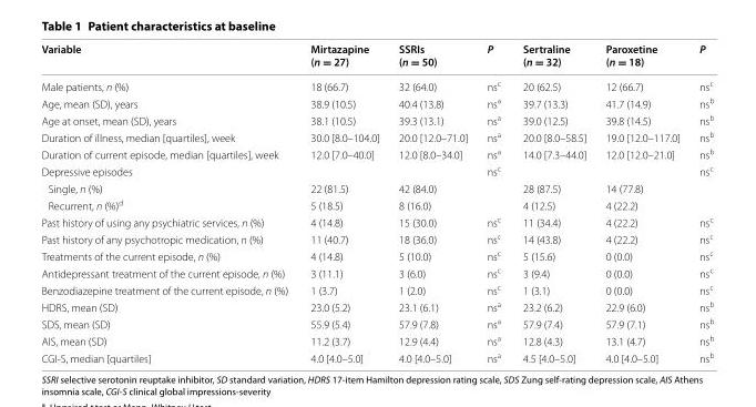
<table><thead><tr><td>Variable</td><td>Mirtazapine (n = 27)</td><td>SSRIs (n = 50)</td><td>P</td><td>Sertraline (n = 32)</td><td>Paroxetine (n = 18)</td><td>P</td></tr></thead><tbody><tr><td>Male patients, n (%)</td><td>18 (66.7)</td><td>32 (64.0)</td><td>ns<sup>c</sup></td><td>20 (62.5)</td><td>12 (66.7)</td><td>ns<sup>c</sup></td></tr><tr><td>Age, mean (SD), years</td><td>38.9 (10.5)</td><td>40.4 (13.8)</td><td>ns<sup>a</sup></td><td>39.7 (13.3)</td><td>41.7 (14.9)</td><td>ns<sup>b</sup></td></tr><tr><td>Age at onset, mean (SD), years</td><td>38.1 (10.5)</td><td>39.3 (13.1)</td><td>ns<sup>a</sup></td><td>39.0 (12.5)</td><td>39.8 (14.5)</td><td>ns<sup>b</sup></td></tr><tr><td>Duration of illness, median [quartiles], week</td><td>30.0 [8.0–104.0]</td><td>20.0 [12.0–71.0]</td><td>ns<sup>a</sup></td><td>20.0 [8.0–58.5]</td><td>19.0 [12.0–117.0]</td><td>ns<sup>b</sup></td></tr><tr><td>Duration of current episode, median [quartiles], week</td><td>12.0 [7.0–40.0]</td><td>12.0 [8.0–34.0]</td><td>ns<sup>a</sup></td><td>14.0 [7.3–44.0]</td><td>12.0 [12.0–21.0]</td><td>ns<sup>b</sup></td></tr><tr><td>Depressive episodes</td><td></td><td></td><td>ns<sup>c</sup></td><td></td><td></td><td>ns<sup>c</sup></td></tr><tr><td>Single, n (%)</td><td>22 (81.5)</td><td>42 (84.0)</td><td></td><td>28 (87.5)</td><td>14 (77.8)</td><td></td></tr><tr><td>Recurrent, n (%)<sup>d</sup></td><td>5 (18.5)</td><td>8 (16.0)</td><td></td><td>4 (12.5)</td><td>4 (22.2)</td><td></td></tr><tr><td>Past history of using any psychiatric services, n (%)</td><td>4 (14.8)</td><td>15 (30.0)</td><td>ns<sup>c</sup></td><td>11 (34.4)</td><td>4 (22.2)</td><td>ns<sup>c</sup></td></tr><tr><td>Past history of any psychotropic medication, n (%)</td><td>11 (40.7)</td><td>18 (36.0)</td><td>ns<sup>c</sup></td><td>14 (43.8)</td><td>4 (22.2)</td><td>ns<sup>c</sup></td></tr><tr><td>Treatments of the current episode, n (%)</td><td>4 (14.8)</td><td>5 (10.0)</td><td>ns<sup>c</sup></td><td>5 (15.6)</td><td>0 (0.0)</td><td>ns<sup>c</sup></td></tr><tr><td>Antidepressant treatment of the current episode, n (%)</td><td>3 (11.1)</td><td>3 (6.0)</td><td>ns<sup>c</sup></td><td>3 (9.4)</td><td>0 (0.0)</td><td>ns<sup>c</sup></td></tr><tr><td>Benzodiazepine treatment of the current episode, n (%)</td><td>1 (3.7)</td><td>1 (2.0)</td><td>ns<sup>c</sup></td><td>1 (3.1)</td><td>0 (0.0)</td><td>ns<sup>c</sup></td></tr><tr><td>HDRS, mean (SD)</td><td>23.0 (5.2)</td><td>23.1 (6.1)</td><td>ns<sup>a</sup></td><td>23.2 (6.2)</td><td>22.9 (6.0)</td><td>ns<sup>b</sup></td></tr><tr><td>SDS, mean (SD)</td><td>55.9 (5.4)</td><td>57.9 (7.8)</td><td>ns<sup>a</sup></td><td>57.9 (7.4)</td><td>57.9 (7.1)</td><td>ns<sup>b</sup></td></tr><tr><td>AIS, mean (SD)</td><td>11.2 (3.7)</td><td>12.9 (4.4)</td><td>ns<sup>a</sup></td><td>12.8 (4.3)</td><td>13.1 (4.7)</td><td>ns<sup>b</sup></td></tr><tr><td>CGI-S, median [quartiles]</td><td>4.0 [4.0–5.0]</td><td>4.0 [4.0–5.0]</td><td>ns<sup>a</sup></td><td>4.5 [4.0–5.0]</td><td>4.0 [4.0–5.0]</td><td>ns<sup>b</sup></td></tr></tbody></table>